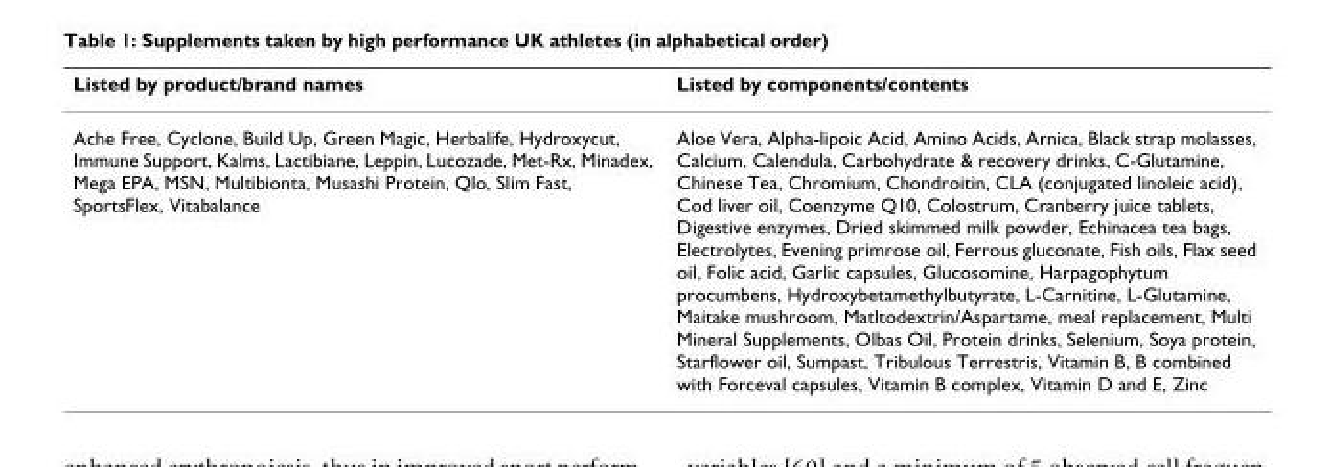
<table><thead><tr><td>Listed by product/brand names</td><td>Listed by components/contents</td></tr></thead><tbody><tr><td>Ache Free, Cyclone, Build Up, Green Magic, Herbalife, Hydroxycut, Immune Support, Kalms, Lactibiane, Leppin, Lucozade, Met-Rx, Minadex, Mega EPA, MSN, Multibionta, Musashi Protein, Qlo, Slim Fast, SportsFlex, Vitabalance</td><td>Aloe Vera, Alpha-lipoic Acid, Amino Acids, Arnica, Black strap molasses, Calcium, Calendula, Carbohydrate &amp; recovery drinks, C-Glutamine, Chinese Tea, Chromium, Chondroitin, CLA (conjugated linoleic acid), Cod liver oil, Coenzyme Q10, Colostrum, Cranberry juice tablets, Digestive enzymes, Dried skimmed milk powder, Echinacea tea bags, Electrolytes, Evening primrose oil, Ferrous gluconate, Fish oils, Flax seed oil, Folic acid, Garlic capsules, Glucosomine, Harpagophytum procumbens, Hydroxybetamethylbutyrate, L-Carnitine, L-Glutamine, Maitake mushroom, Matltodextrin/Aspartame, meal replacement, Multi Mineral Supplements, Olbas Oil, Protein drinks, Selenium, Soya protein, Starflower oil, Sumpast, Tribulous Terrestris, Vitamin B, B combined with Forceval capsules, Vitamin B complex, Vitamin D and E, Zinc</td></tr></tbody></table>